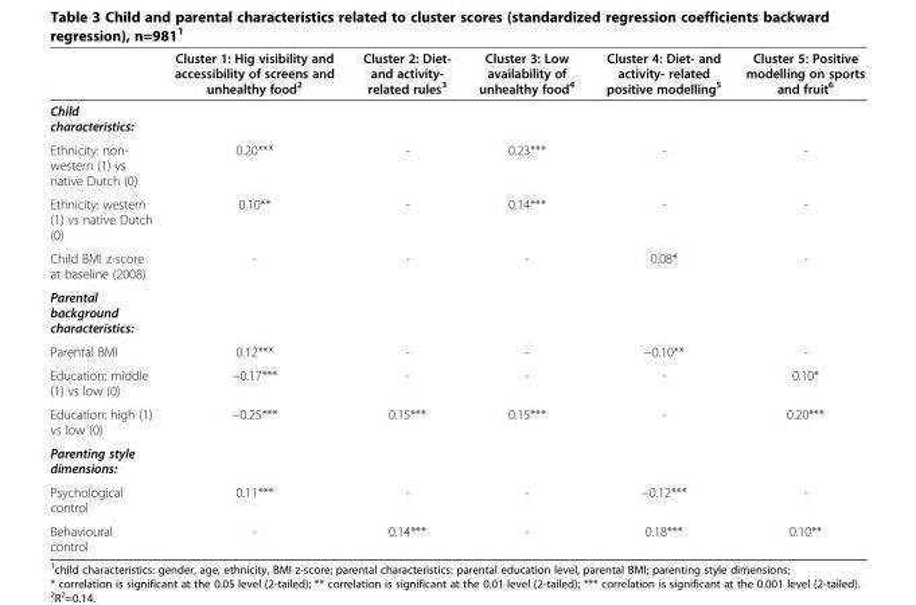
<table><thead><tr><td></td><td>Cluster 1: Hig visibility and accessibility of screens and unhealthy food<sup>2</sup></td><td>Cluster 2: Diet- and activity- related rules<sup>3</sup></td><td>Cluster 3: Low availability of unhealthy food<sup>4</sup></td><td>Cluster 4: Diet- and activity- related positive modelling<sup>5</sup></td><td>Cluster 5: Positive modelling on sports and fruit<sup>6</sup></td></tr></thead><tbody><tr><td colspan="6">Child characteristics:</td></tr><tr><td>Ethnicity: non- western (1) vs native Dutch (0)</td><td>0.20***</td><td>-</td><td>0.23***</td><td>-</td><td>-</td></tr><tr><td>Ethnicity: western (1) vs native Dutch (0)</td><td>0.10**</td><td>-</td><td>0.14***</td><td>-</td><td>-</td></tr><tr><td>Child BMI z-score at baseline (2008)</td><td>-</td><td>-</td><td>-</td><td>0.08*</td><td>-</td></tr><tr><td colspan="6">Parental background characteristics:</td></tr><tr><td>Parental BMI</td><td>0.12***</td><td>-</td><td>-</td><td>−0.10**</td><td>-</td></tr><tr><td>Education: middle (1) vs low (0)</td><td>−0.17***</td><td>-</td><td>-</td><td>-</td><td>0.10*</td></tr><tr><td>Education: high (1) vs low (0)</td><td>−0.25***</td><td>0.15***</td><td>0.15***</td><td>-</td><td>0.20***</td></tr><tr><td colspan="6">Parenting style dimensions:</td></tr><tr><td>Psychological control</td><td>0.11***</td><td>-</td><td>-</td><td>−0.12***</td><td>-</td></tr><tr><td>Behavioural control</td><td>-</td><td>0.14***</td><td>-</td><td>0.18***</td><td>0.10**</td></tr></tbody></table>